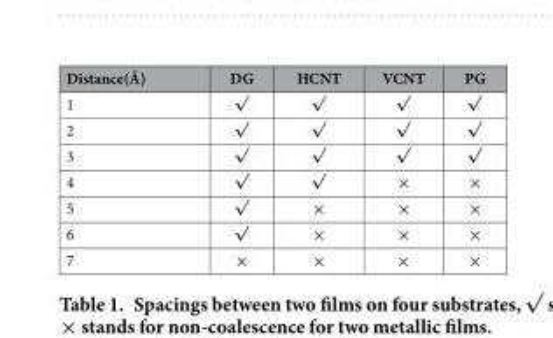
<table><thead><tr><td>Distance(Å)</td><td>DG</td><td>HCNT</td><td>VCNT</td><td>PG</td></tr></thead><tbody><tr><td>1</td><td>√</td><td>√</td><td>√</td><td>√</td></tr><tr><td>2</td><td>√</td><td>√</td><td>√</td><td>√</td></tr><tr><td>3</td><td>√</td><td>√</td><td>√</td><td>√</td></tr><tr><td>4</td><td>√</td><td>√</td><td>×</td><td>×</td></tr><tr><td>5</td><td>√</td><td>×</td><td>×</td><td>×</td></tr><tr><td>6</td><td>√</td><td>×</td><td>×</td><td>×</td></tr><tr><td>7</td><td>×</td><td>×</td><td>×</td><td>×</td></tr></tbody></table>